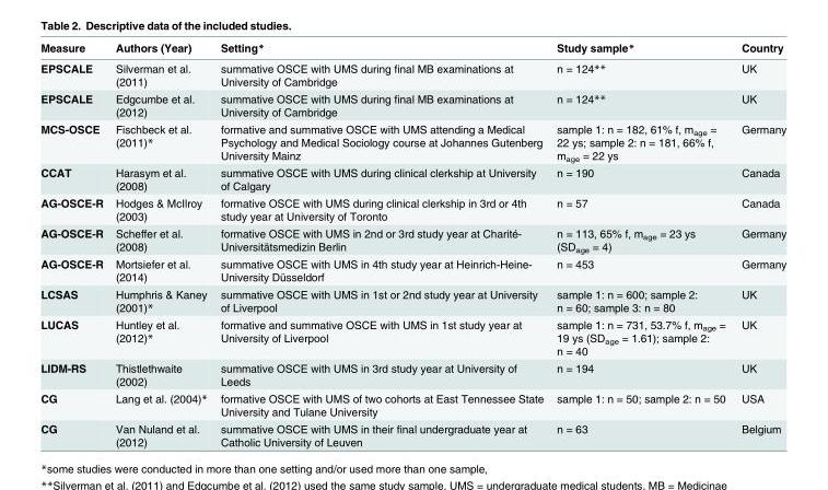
<table><thead><tr><td>Measure</td><td>Authors (Year)</td><td>Setting*</td><td>Study sample*</td><td>Country</td></tr></thead><tbody><tr><td>EPSCALE</td><td>Silverman et al. (2011)</td><td>summative OSCE with UMS during final MB examinations at University of Cambridge</td><td>n = 124**</td><td>UK</td></tr><tr><td>EPSCALE</td><td>Edgcumbe et al. (2012)</td><td>summative OSCE with UMS during final MB examinations at University of Cambridge</td><td>n = 124**</td><td>UK</td></tr><tr><td>MCS-OSCE</td><td>Fischbeck et al. (2011)*</td><td>formative and summative OSCE with UMS attending a Medical Psychology and Medical Sociology course at Johannes Gutenberg University Mainz</td><td>sample 1: n = 182, 61% f, m<sub>age</sub> = 22 ys; sample 2: n = 181, 66% f, m<sub>age</sub> = 22 ys</td><td>Germany</td></tr><tr><td>CCAT</td><td>Harasym et al. (2008)</td><td>summative OSCE with UMS during clinical clerkship at University of Calgary</td><td>n = 190</td><td>Canada</td></tr><tr><td>AG-OSCE-R</td><td>Hodges &amp; McIlroy (2003)</td><td>formative OSCE with UMS during clinical clerkship in 3rd or 4th study year at University of Toronto</td><td>n = 57</td><td>Canada</td></tr><tr><td>AG-OSCE-R</td><td>Scheffer et al. (2008)</td><td>formative OSCE with UMS in 2nd or 3rd study year at Charité- Universitätsmedizin Berlin</td><td>n = 113, 65% f, m<sub>age</sub> = 23 ys (SD<sub>age</sub> = 4)</td><td>Germany</td></tr><tr><td>AG-OSCE-R</td><td>Mortsiefer et al. (2014)</td><td>summative OSCE with UMS in 4th study year at Heinrich-Heine- University Düsseldorf</td><td>n = 453</td><td>Germany</td></tr><tr><td>LCSAS</td><td>Humphris &amp; Kaney (2001)*</td><td>summative OSCE with UMS in 1st or 2nd study year at University of Liverpool</td><td>sample 1: n = 600; sample 2: n = 60; sample 3: n = 80</td><td>UK</td></tr><tr><td>LUCAS</td><td>Huntley et al. (2012)*</td><td>formative and summative OSCE with UMS in 1st study year at University of Liverpool</td><td>sample 1: n = 731, 53.7% f, m<sub>age</sub> = 19 ys (SD<sub>age</sub> = 1.61); sample 2: n = 40</td><td>UK</td></tr><tr><td>LIDM-RS</td><td>Thistlethwaite (2002)</td><td>summative OSCE with UMS in 3rd study year at University of Leeds</td><td>n = 194</td><td>UK</td></tr><tr><td>CG</td><td>Lang et al. (2004)*</td><td>formative OSCE with UMS of two cohorts at East Tennessee State University and Tulane University</td><td>sample 1: n = 50; sample 2: n = 50</td><td>USA</td></tr><tr><td>CG</td><td>Van Nuland et al. (2012)</td><td>summative OSCE with UMS in their final undergraduate year at Catholic University of Leuven</td><td>n = 63</td><td>Belgium</td></tr></tbody></table>